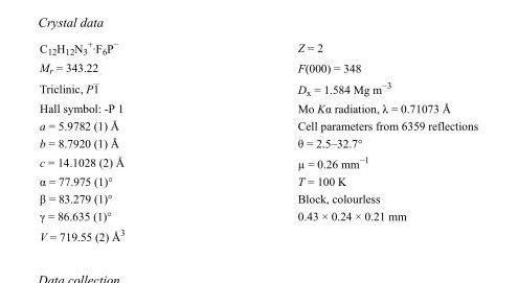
<table><tbody><tr><td>C<sub>12</sub>H<sub>12</sub>N<sub>3</sub> <sup>+</sup>·F<sub>6</sub>P<sup>−</sup></td><td>Z = 2</td></tr><tr><td>M<sub>r</sub> = 343.22</td><td>F(000) = 348</td></tr><tr><td>Triclinic, P1</td><td>D<sub>x</sub> = 1.584 Mg m<sup>−3</sup></td></tr><tr><td>Hall symbol: -P 1</td><td>Mo Kα radiation, λ = 0.71073 Å</td></tr><tr><td>a = 5.9782 (1) Å</td><td>Cell parameters from 6359 reflections</td></tr><tr><td>b = 8.7920 (1) Å</td><td>θ = 2.5–32.7°</td></tr><tr><td>c = 14.1028 (2) Å</td><td>µ = 0.26 mm<sup>−1</sup></td></tr><tr><td>α = 77.975 (1)°</td><td>T = 100 K</td></tr><tr><td>β = 83.279 (1)°</td><td>Block, colourless</td></tr><tr><td>γ = 86.635 (1)°</td><td>0.43 × 0.24 × 0.21 mm</td></tr><tr><td>V = 719.55 (2) Å<sup>3</sup></td><td></td></tr></tbody></table>